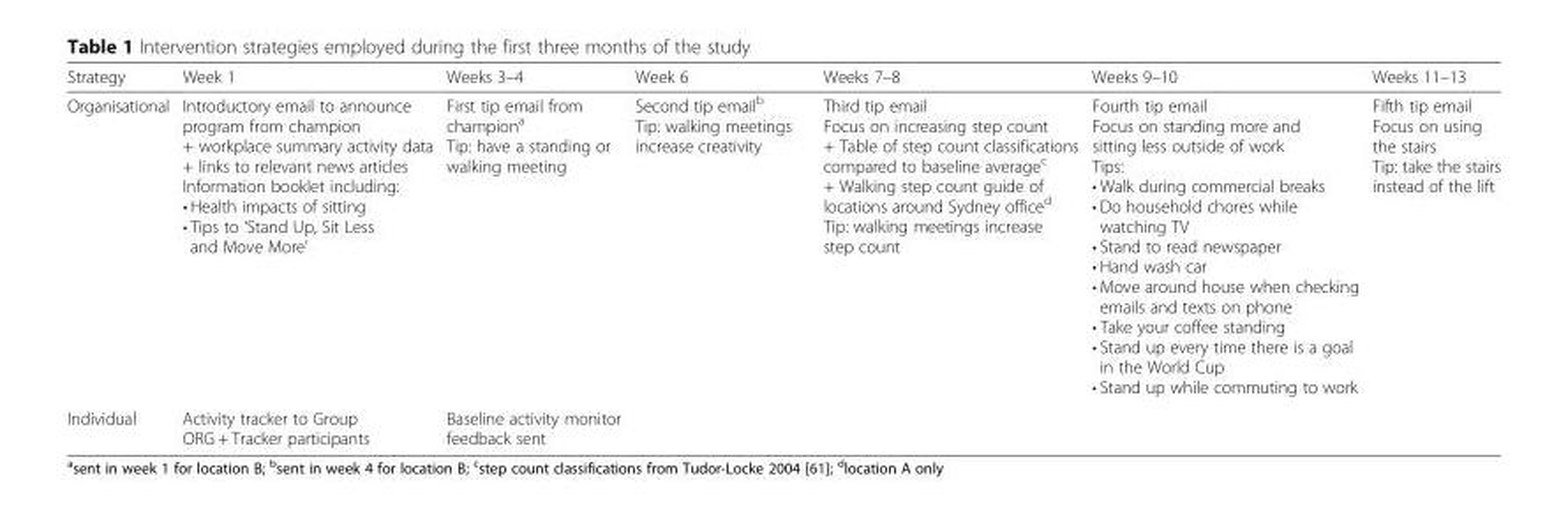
<table><thead><tr><td>Strategy</td><td>Week 1</td><td>Weeks 3–4</td><td>Week 6</td><td>Weeks 7–8</td><td>Weeks 9–10</td><td>Weeks 11–13</td></tr></thead><tbody><tr><td>Organisational</td><td>Introductory email to announce program from champion + workplace summary activity data + links to relevant news articles Information booklet including: • Health impacts of sitting • Tips to ‘Stand Up, Sit Less and Move More’</td><td>First tip email from champion<sup>a</sup> Tip: have a standing or walking meeting</td><td>Second tip email<sup>b</sup> Tip: walking meetings increase creativity</td><td>Third tip email Focus on increasing step count + Table of step count classifications compared to baseline average<sup>c</sup> + Walking step count guide of locations around Sydney office<sup>d</sup> Tip: walking meetings increase step count</td><td>Fourth tip email Focus on standing more and sitting less outside of work Tips: • Walk during commercial breaks • Do household chores while watching TV • Stand to read newspaper • Hand wash car • Move around house when checking emails and texts on phone • Take your coffee standing • Stand up every time there is a goal in the World Cup • Stand up while commuting to work</td><td>Fifth tip email Focus on using the stairs Tip: take the stairs instead of the lift</td></tr><tr><td>Individual</td><td>Activity tracker to Group ORG + Tracker participants</td><td>Baseline activity monitor feedback sent</td><td></td><td></td><td></td><td></td></tr></tbody></table>